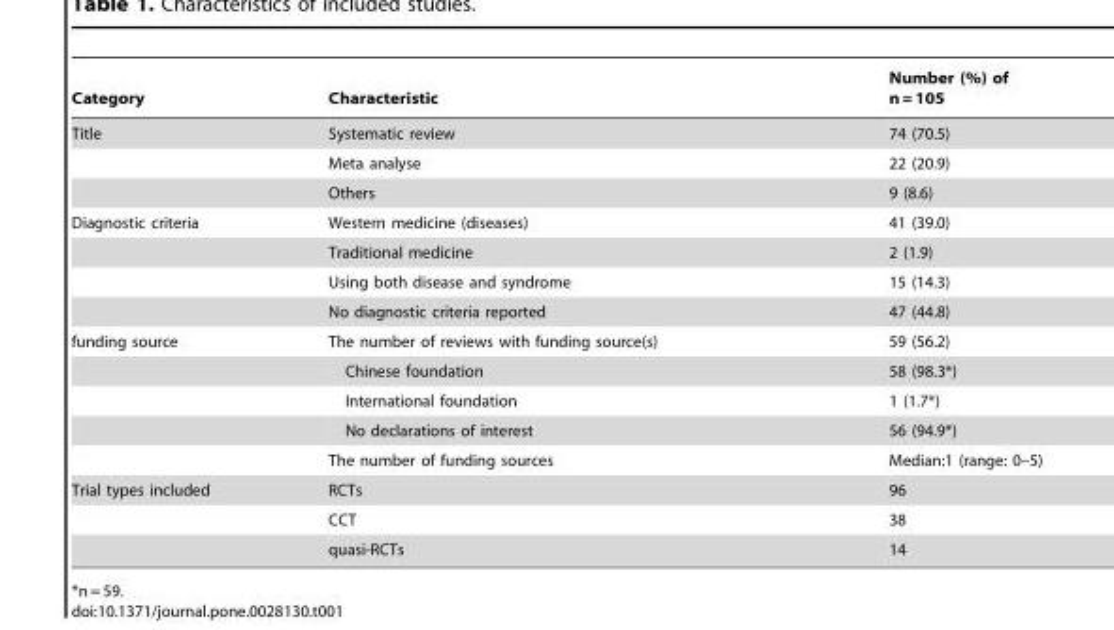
<table><thead><tr><td>Category</td><td>Characteristic</td><td>Number (%) of n = 105</td></tr></thead><tbody><tr><td rowspan="3">Title</td><td>Systematic review</td><td>74 (70.5)</td></tr><tr><td>Meta analyse</td><td>22 (20.9)</td></tr><tr><td>Others</td><td>9 (8.6)</td></tr><tr><td rowspan="4">Diagnostic criteria</td><td>Western medicine (diseases)</td><td>41 (39.0)</td></tr><tr><td>Traditional medicine</td><td>2 (1.9)</td></tr><tr><td>Using both disease and syndrome</td><td>15 (14.3)</td></tr><tr><td>No diagnostic criteria reported</td><td>47 (44.8)</td></tr><tr><td rowspan="5">funding source</td><td>The number of reviews with funding source(s)</td><td>59 (56.2)</td></tr><tr><td>Chinese foundation</td><td>58 (98.3*)</td></tr><tr><td>International foundation</td><td>1 (1.7*)</td></tr><tr><td>No declarations of interest</td><td>56 (94.9*)</td></tr><tr><td>The number of funding sources</td><td>Median:1 (range: 0–5)</td></tr><tr><td rowspan="3">Trial types included</td><td>RCTs</td><td>96</td></tr><tr><td>CCT</td><td>38</td></tr><tr><td>quasi-RCTs</td><td>14</td></tr></tbody></table>